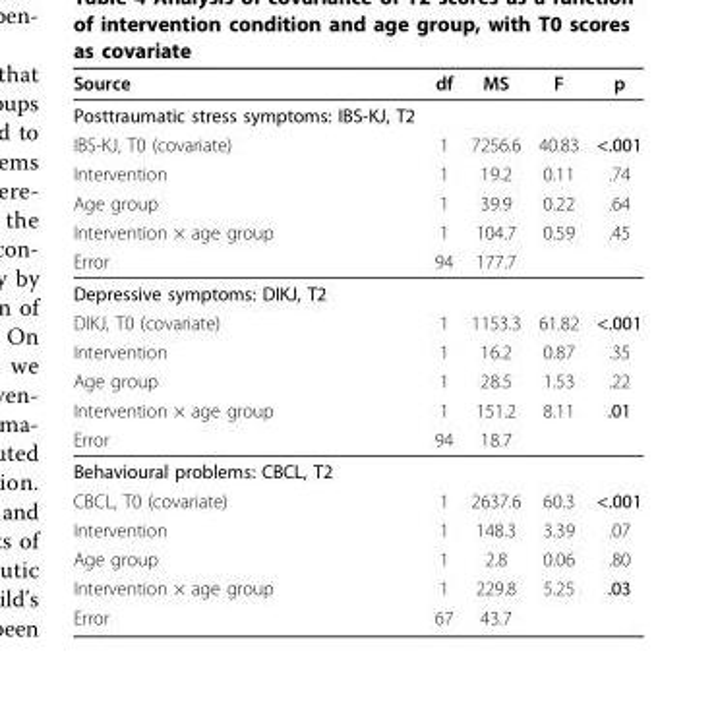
<table><thead><tr><td>Source</td><td>df</td><td>MS</td><td>F</td><td>p</td></tr></thead><tbody><tr><td colspan="5">Posttraumatic stress symptoms: IBS-KJ, T2</td></tr><tr><td>IBS-KJ, T0 (covariate)</td><td>1</td><td>7256.6</td><td>40.83</td><td>&lt;.001</td></tr><tr><td>Intervention</td><td>1</td><td>19.2</td><td>0.11</td><td>.74</td></tr><tr><td>Age group</td><td>1</td><td>39.9</td><td>0.22</td><td>.64</td></tr><tr><td>Intervention × age group</td><td>1</td><td>104.7</td><td>0.59</td><td>.45</td></tr><tr><td>Error</td><td>94</td><td>177.7</td><td></td><td></td></tr><tr><td colspan="5">Depressive symptoms: DIKJ, T2</td></tr><tr><td>DIKJ, T0 (covariate)</td><td>1</td><td>1153.3</td><td>61.82</td><td>&lt;.001</td></tr><tr><td>Intervention</td><td>1</td><td>16.2</td><td>0.87</td><td>.35</td></tr><tr><td>Age group</td><td>1</td><td>28.5</td><td>1.53</td><td>.22</td></tr><tr><td>Intervention × age group</td><td>1</td><td>151.2</td><td>8.11</td><td>.01</td></tr><tr><td>Error</td><td>94</td><td>18.7</td><td></td><td></td></tr><tr><td colspan="5">Behavioural problems: CBCL, T2</td></tr><tr><td>CBCL, T0 (covariate)</td><td>1</td><td>2637.6</td><td>60.3</td><td>&lt;.001</td></tr><tr><td>Intervention</td><td>1</td><td>148.3</td><td>3.39</td><td>.07</td></tr><tr><td>Age group</td><td>1</td><td>2.8</td><td>0.06</td><td>.80</td></tr><tr><td>Intervention × age group</td><td>1</td><td>229.8</td><td>5.25</td><td>.03</td></tr><tr><td>Error</td><td>67</td><td>43.7</td><td></td><td></td></tr></tbody></table>